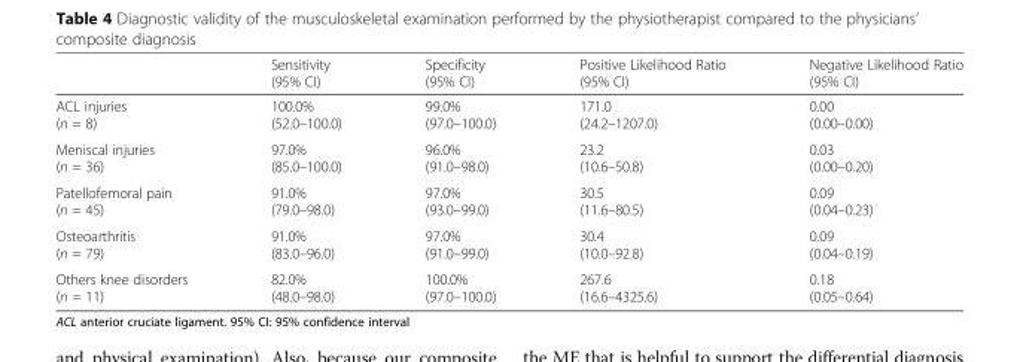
<table><thead><tr><td></td><td>Sensitivity (95% CI)</td><td>Specificity (95% CI)</td><td>Positive Likelihood Ratio (95% CI)</td><td>Negative Likelihood Ratio (95% CI)</td></tr></thead><tbody><tr><td>ACL injuries (n = 8)</td><td>100.0% (52.0–100.0)</td><td>99.0% (97.0–100.0)</td><td>171.0 (24.2–1207.0)</td><td>0.00 (0.00–0.00)</td></tr><tr><td>Meniscal injuries (n = 36)</td><td>97.0% (85.0–100.0)</td><td>96.0% (91.0–98.0)</td><td>23.2 (10.6–50.8)</td><td>0.03 (0.00–0.20)</td></tr><tr><td>Patellofemoral pain (n = 45)</td><td>91.0% (79.0–98.0)</td><td>97.0% (93.0–99.0)</td><td>30.5 (11.6–80.5)</td><td>0.09 (0.04–0.23)</td></tr><tr><td>Osteoarthritis (n = 79)</td><td>91.0% (83.0–96.0)</td><td>97.0% (91.0–99.0)</td><td>30.4 (10.0–92.8)</td><td>0.09 (0.04–0.19)</td></tr><tr><td>Others knee disorders (n = 11)</td><td>82.0% (48.0–98.0)</td><td>100.0% (97.0–100.0)</td><td>267.6 (16.6–4325.6)</td><td>0.18 (0.05–0.64)</td></tr></tbody></table>